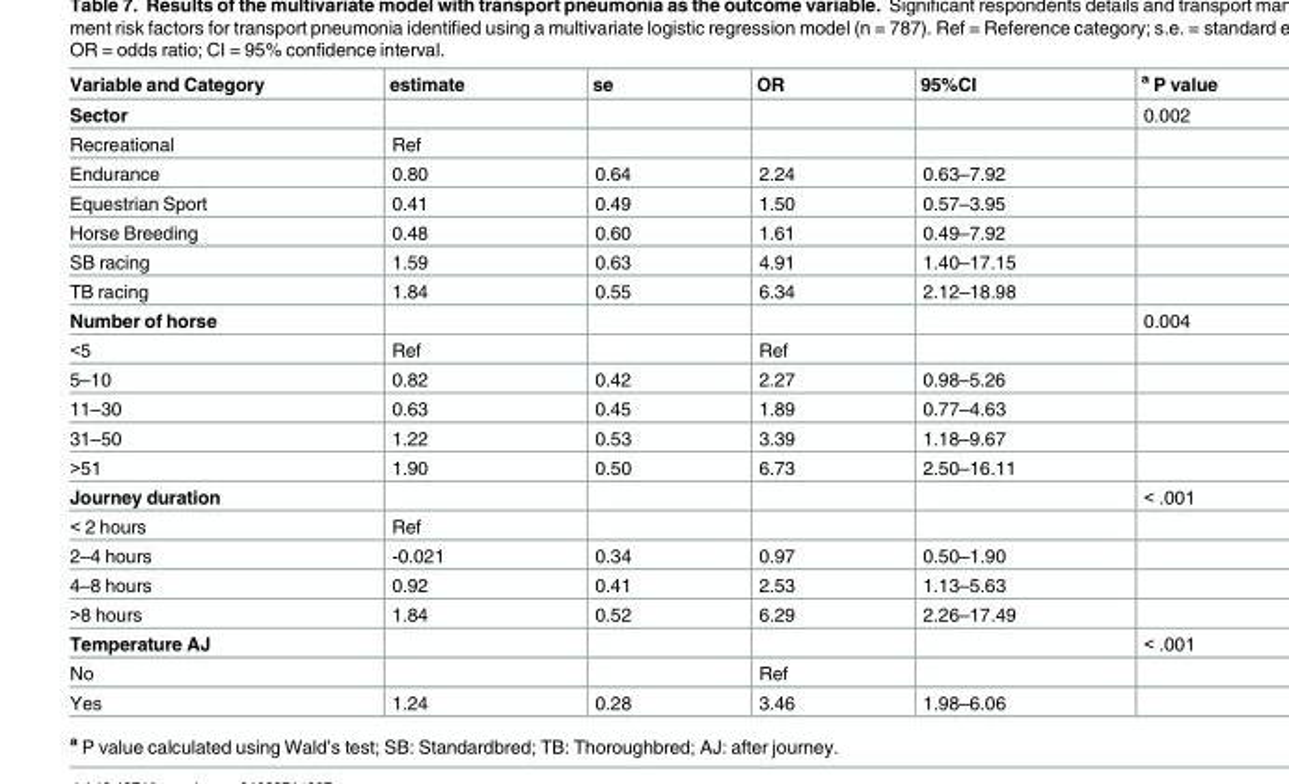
<table><thead><tr><td>Variable and Category</td><td>estimate</td><td>se</td><td>OR</td><td>95%CI</td><td><sup>a</sup> P value</td></tr></thead><tbody><tr><td>Sector</td><td></td><td></td><td></td><td></td><td>0.002</td></tr><tr><td>Recreational</td><td>Ref</td><td></td><td></td><td></td><td></td></tr><tr><td>Endurance</td><td>0.80</td><td>0.64</td><td>2.24</td><td>0.63–7.92</td><td></td></tr><tr><td>Equestrian Sport</td><td>0.41</td><td>0.49</td><td>1.50</td><td>0.57–3.95</td><td></td></tr><tr><td>Horse Breeding</td><td>0.48</td><td>0.60</td><td>1.61</td><td>0.49–7.92</td><td></td></tr><tr><td>SB racing</td><td>1.59</td><td>0.63</td><td>4.91</td><td>1.40–17.15</td><td></td></tr><tr><td>TB racing</td><td>1.84</td><td>0.55</td><td>6.34</td><td>2.12–18.98</td><td></td></tr><tr><td>Number of horse</td><td></td><td></td><td></td><td></td><td>0.004</td></tr><tr><td>&lt;5</td><td>Ref</td><td></td><td>Ref</td><td></td><td></td></tr><tr><td>5–10</td><td>0.82</td><td>0.42</td><td>2.27</td><td>0.98–5.26</td><td></td></tr><tr><td>11–30</td><td>0.63</td><td>0.45</td><td>1.89</td><td>0.77–4.63</td><td></td></tr><tr><td>31–50</td><td>1.22</td><td>0.53</td><td>3.39</td><td>1.18–9.67</td><td></td></tr><tr><td>&gt;51</td><td>1.90</td><td>0.50</td><td>6.73</td><td>2.50–16.11</td><td></td></tr><tr><td>Journey duration</td><td></td><td></td><td></td><td></td><td>&lt; .001</td></tr><tr><td>&lt; 2 hours</td><td>Ref</td><td></td><td></td><td></td><td></td></tr><tr><td>2–4 hours</td><td>-0.021</td><td>0.34</td><td>0.97</td><td>0.50–1.90</td><td></td></tr><tr><td>4–8 hours</td><td>0.92</td><td>0.41</td><td>2.53</td><td>1.13–5.63</td><td></td></tr><tr><td>&gt;8 hours</td><td>1.84</td><td>0.52</td><td>6.29</td><td>2.26–17.49</td><td></td></tr><tr><td>Temperature AJ</td><td></td><td></td><td></td><td></td><td>&lt; .001</td></tr><tr><td>No</td><td></td><td></td><td>Ref</td><td></td><td></td></tr><tr><td>Yes</td><td>1.24</td><td>0.28</td><td>3.46</td><td>1.98–6.06</td><td></td></tr></tbody></table>